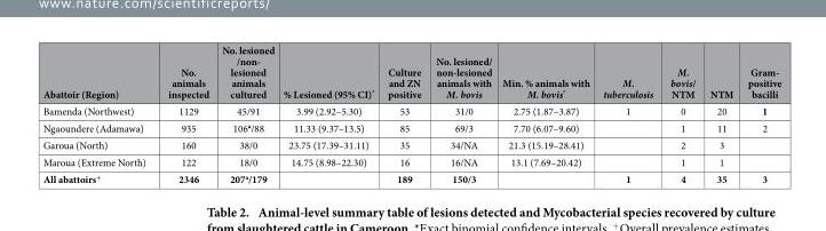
<table><thead><tr><td>Abattoir (Region)</td><td>No. animals inspected</td><td>No. lesioned /non- lesioned animals cultured</td><td>% Lesioned (95% CI)*</td><td>Culture and ZN positive</td><td>No. lesioned/ non-lesioned animals with M. bovis</td><td>Min. % animals with M. bovis*</td><td>M. tuberculosis</td><td>M. bovis/ NTM</td><td>NTM</td><td>Gram- positive bacilli</td></tr></thead><tbody><tr><td>Bamenda (Northwest)</td><td>1129</td><td>45/91</td><td>3.99 (2.92–5.30)</td><td>53</td><td>31/0</td><td>2.75 (1.87–3.87)</td><td>1</td><td>0</td><td>20</td><td>1</td></tr><tr><td>Ngaoundere (Adamawa)</td><td>935</td><td>106<sup>a</sup>/88</td><td>11.33 (9.37–13.5)</td><td>85</td><td>69/3</td><td>7.70 (6.07–9.60)</td><td></td><td>1</td><td>11</td><td>2</td></tr><tr><td>Garoua (North)</td><td>160</td><td>38/0</td><td>23.75 (17.39–31.11)</td><td>35</td><td>34/NA</td><td>21.3 (15.19–28.41)</td><td></td><td>2</td><td>3</td><td></td></tr><tr><td>Maroua (Extreme North)</td><td>122</td><td>18/0</td><td>14.75 (8.98–22.30)</td><td>16</td><td>16/NA</td><td>13.1 (7.69–20.42)</td><td></td><td>1</td><td>1</td><td></td></tr><tr><td>All abattoirs+</td><td>2346</td><td>207<sup>a</sup>/179</td><td></td><td>189</td><td>150/3</td><td></td><td>1</td><td>4</td><td>35</td><td>3</td></tr></tbody></table>